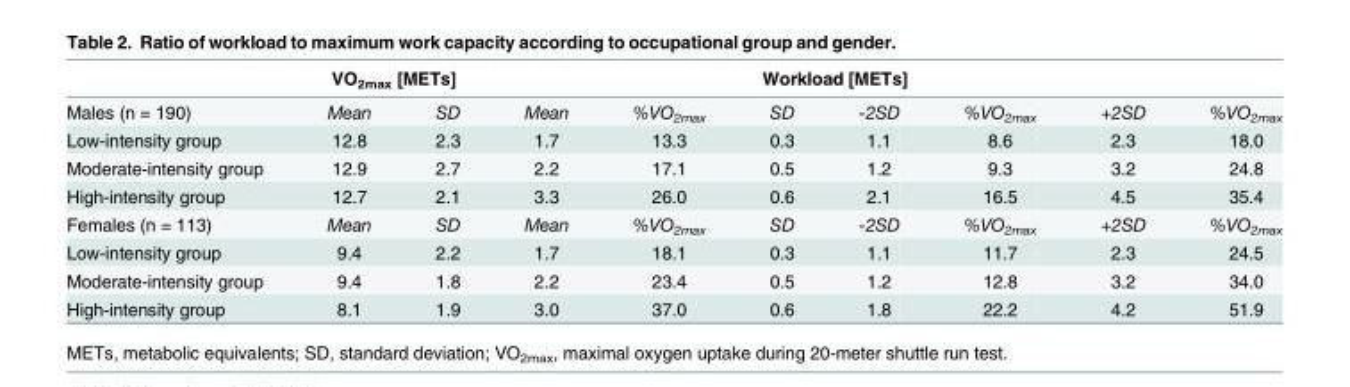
<table><thead><tr><td rowspan="2">Males (n = 190)</td><td colspan="2">VO<sub>2max</sub> [METs]</td><td colspan="6">Workload [METs]</td><td rowspan="2">%VO<sub>2max</sub></td></tr><tr><td>Mean</td><td>SD</td><td>Mean</td><td>%VO<sub>2max</sub></td><td>SD</td><td>-2SD</td><td>%VO<sub>2max</sub></td><td>+2SD</td></tr></thead><tbody><tr><td>Low-intensity group</td><td>12.8</td><td>2.3</td><td>1.7</td><td>13.3</td><td>0.3</td><td>1.1</td><td>8.6</td><td>2.3</td><td>18.0</td></tr><tr><td>Moderate-intensity group</td><td>12.9</td><td>2.7</td><td>2.2</td><td>17.1</td><td>0.5</td><td>1.2</td><td>9.3</td><td>3.2</td><td>24.8</td></tr><tr><td>High-intensity group</td><td>12.7</td><td>2.1</td><td>3.3</td><td>26.0</td><td>0.6</td><td>2.1</td><td>16.5</td><td>4.5</td><td>35.4</td></tr><tr><td>Females (n = 113)</td><td>Mean</td><td>SD</td><td>Mean</td><td>%VO<sub>2max</sub></td><td>SD</td><td>-2SD</td><td>%VO<sub>2max</sub></td><td>+2SD</td><td>%VO<sub>2max</sub></td></tr><tr><td>Low-intensity group</td><td>9.4</td><td>2.2</td><td>1.7</td><td>18.1</td><td>0.3</td><td>1.1</td><td>11.7</td><td>2.3</td><td>24.5</td></tr><tr><td>Moderate-intensity group</td><td>9.4</td><td>1.8</td><td>2.2</td><td>23.4</td><td>0.5</td><td>1.2</td><td>12.8</td><td>3.2</td><td>34.0</td></tr><tr><td>High-intensity group</td><td>8.1</td><td>1.9</td><td>3.0</td><td>37.0</td><td>0.6</td><td>1.8</td><td>22.2</td><td>4.2</td><td>51.9</td></tr></tbody></table>